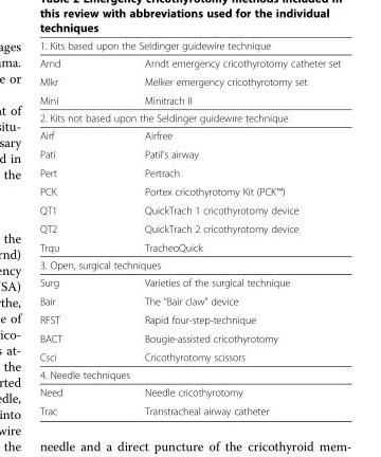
<table><tbody><tr><td colspan="2">1. Kits based upon the Seldinger guidewire technique</td></tr><tr><td>Arnd</td><td>Arndt emergency cricothyrotomy catheter set</td></tr><tr><td>Mlkr</td><td>Melker emergency cricothyrotomy set</td></tr><tr><td>Mini</td><td>Minitrach II</td></tr><tr><td colspan="2">2. Kits not based upon the Seldinger guidewire technique</td></tr><tr><td>Airf</td><td>Airfree</td></tr><tr><td>Pati</td><td>Patil’s airway</td></tr><tr><td>Pert</td><td>Pertrach</td></tr><tr><td>PCK</td><td>Portex cricothyrotomy Kit (PCK™)</td></tr><tr><td>QT1</td><td>QuickTrach 1 cricothyrotomy device</td></tr><tr><td>QT2</td><td>QuickTrach 2 cricothyrotomy device</td></tr><tr><td>Trqu</td><td>TracheoQuick</td></tr><tr><td colspan="2">3. Open, surgical techniques</td></tr><tr><td>Surg</td><td>Varieties of the surgical technique</td></tr><tr><td>Bair</td><td>The “Bair claw” device</td></tr><tr><td>RFST</td><td>Rapid four-step-technique</td></tr><tr><td>BACT</td><td>Bougie-assisted cricothyrotomy</td></tr><tr><td>Csci</td><td>Cricothyrotomy scissors</td></tr><tr><td colspan="2">4. Needle techniques</td></tr><tr><td>Need</td><td>Needle cricothyrotomy</td></tr><tr><td>Trac</td><td>Transtracheal airway catheter</td></tr></tbody></table>